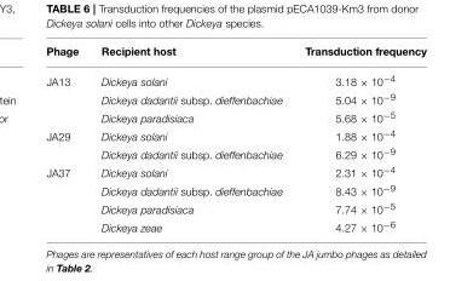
<table><thead><tr><td>Phage</td><td>Recipient host</td><td>Transduction frequency</td></tr></thead><tbody><tr><td rowspan="3">JA13</td><td>Dickeya solani</td><td>3.18 × 10<sup>−4</sup></td></tr><tr><td>Dickeya dadantii subsp. dieffenbachiae</td><td>5.04 × 10<sup>−9</sup></td></tr><tr><td>Dickeya paradisiaca</td><td>5.68 × 10<sup>−5</sup></td></tr><tr><td rowspan="2">JA29</td><td>Dickeya solani</td><td>1.88 × 10<sup>−4</sup></td></tr><tr><td>Dickeya dadantii subsp. dieffenbachiae</td><td>6.29 × 10<sup>−9</sup></td></tr><tr><td rowspan="4">JA37</td><td>Dickeya solani</td><td>2.31 × 10<sup>−4</sup></td></tr><tr><td>Dickeya dadantii subsp. dieffenbachiae</td><td>8.43 × 10<sup>−9</sup></td></tr><tr><td>Dickeya paradisiaca</td><td>7.74 × 10<sup>−5</sup></td></tr><tr><td>Dickeya zeae</td><td>4.27 × 10<sup>−6</sup></td></tr></tbody></table>